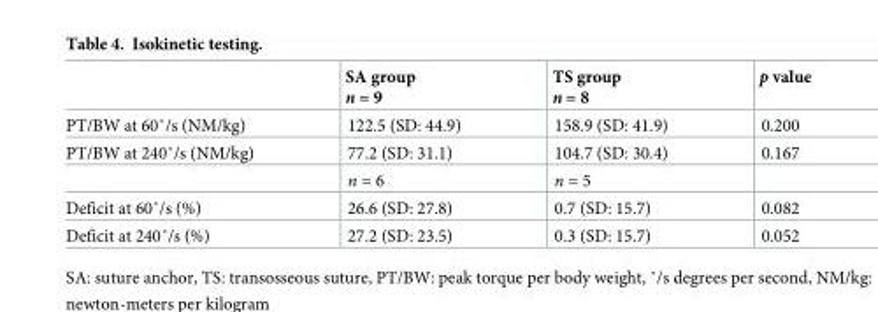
<table><thead><tr><td></td><td>SA group n = 9</td><td>TS group n = 8</td><td>p value</td></tr></thead><tbody><tr><td>PT/BW at 60˚/s (NM/kg)</td><td>122.5 (SD: 44.9)</td><td>158.9 (SD: 41.9)</td><td>0.200</td></tr><tr><td rowspan="2">PT/BW at 240˚/s (NM/kg)</td><td>77.2 (SD: 31.1)</td><td>104.7 (SD: 30.4)</td><td>0.167</td></tr><tr><td>n = 6</td><td>n = 5</td><td></td></tr><tr><td>Deficit at 60˚/s (%)</td><td>26.6 (SD: 27.8)</td><td>0.7 (SD: 15.7)</td><td>0.082</td></tr><tr><td>Deficit at 240˚/s (%)</td><td>27.2 (SD: 23.5)</td><td>0.3 (SD: 15.7)</td><td>0.052</td></tr></tbody></table>